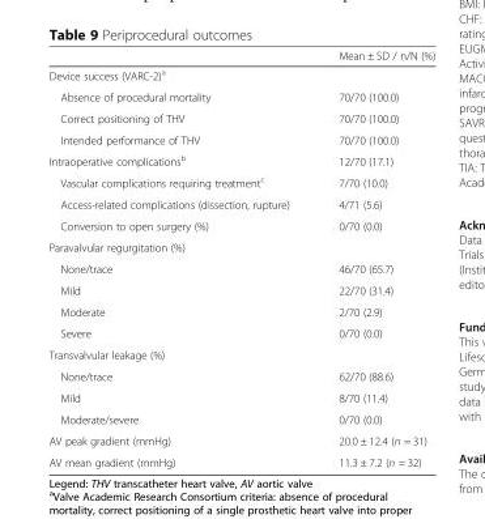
<table><thead><tr><td></td><td>Mean ± SD / n/N (%)</td></tr></thead><tbody><tr><td colspan="2">Device success (VARC-2)<sup>a</sup></td></tr><tr><td>Absence of procedural mortality</td><td>70/70 (100.0)</td></tr><tr><td>Correct positioning of THV</td><td>70/70 (100.0)</td></tr><tr><td>Intended performance of THV</td><td>70/70 (100.0)</td></tr><tr><td>Intraoperative complications<sup>b</sup></td><td>12/70 (17.1)</td></tr><tr><td>Vascular complications requiring treatment<sup>c</sup></td><td>7/70 (10.0)</td></tr><tr><td>Access-related complications (dissection, rupture)</td><td>4/71 (5.6)</td></tr><tr><td>Conversion to open surgery (%)</td><td>0/70 (0.0)</td></tr><tr><td colspan="2">Paravalvular regurgitation (%)</td></tr><tr><td>None/trace</td><td>46/70 (65.7)</td></tr><tr><td>Mild</td><td>22/70 (31.4)</td></tr><tr><td>Moderate</td><td>2/70 (2.9)</td></tr><tr><td>Severe</td><td>0/70 (0.0)</td></tr><tr><td colspan="2">Transvalvular leakage (%)</td></tr><tr><td>None/trace</td><td>62/70 (88.6)</td></tr><tr><td>Mild</td><td>8/70 (11.4)</td></tr><tr><td>Moderate/severe</td><td>0/70 (0.0)</td></tr><tr><td>AV peak gradient (mmHg)</td><td>20.0 ± 12.4 (n = 31)</td></tr><tr><td>AV mean gradient (mmHg)</td><td>11.3 ± 7.2 (n = 32)</td></tr></tbody></table>